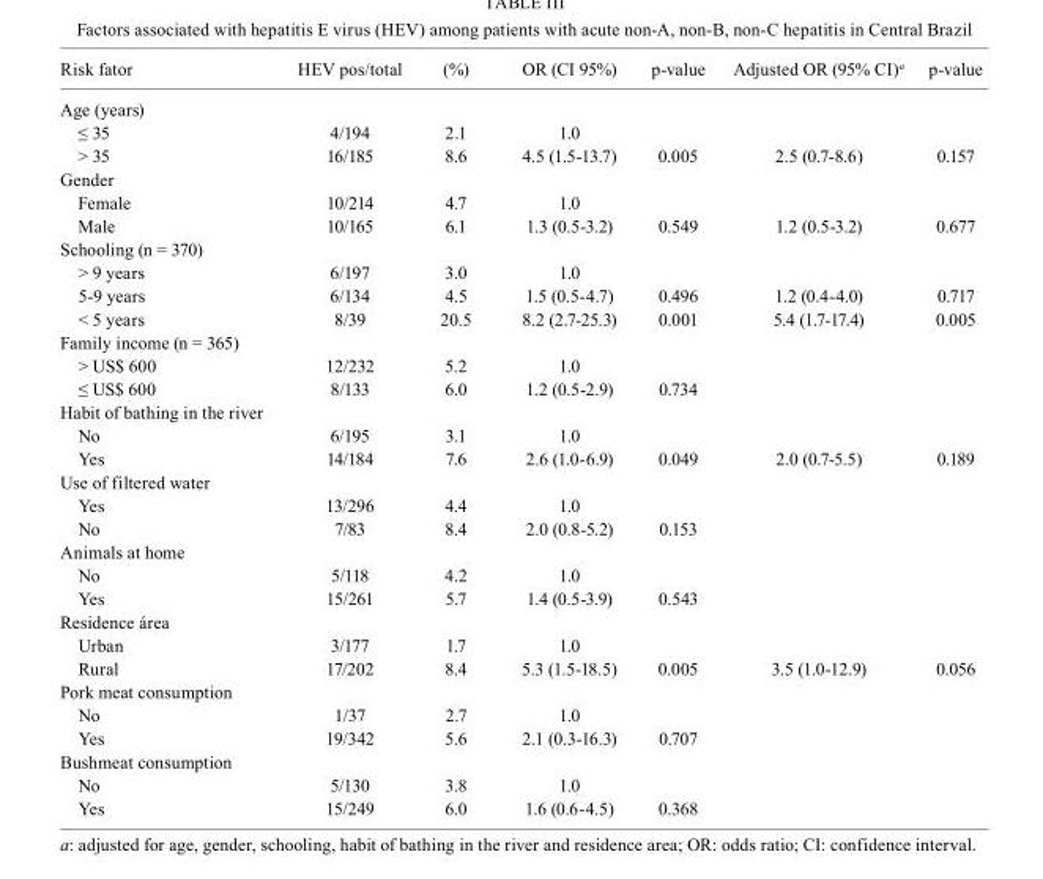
<table><thead><tr><td>Risk fator</td><td>HEV pos/total</td><td>(%)</td><td>OR (CI 95%)</td><td>p-value</td><td>Adjusted OR (95% CI)<sup>a</sup></td><td>p-value</td></tr></thead><tbody><tr><td colspan="7">Age (years)</td></tr><tr><td>≤ 35</td><td>4/194</td><td>2.1</td><td>1.0</td><td></td><td></td><td></td></tr><tr><td>&gt; 35</td><td>16/185</td><td>8.6</td><td>4.5 (1.5-13.7)</td><td>0.005</td><td>2.5 (0.7-8.6)</td><td>0.157</td></tr><tr><td colspan="7">Gender</td></tr><tr><td>Female</td><td>10/214</td><td>4.7</td><td>1.0</td><td></td><td></td><td></td></tr><tr><td>Male</td><td>10/165</td><td>6.1</td><td>1.3 (0.5-3.2)</td><td>0.549</td><td>1.2 (0.5-3.2)</td><td>0.677</td></tr><tr><td colspan="7">Schooling (n = 370)</td></tr><tr><td>&gt; 9 years</td><td>6/197</td><td>3.0</td><td>1.0</td><td></td><td></td><td></td></tr><tr><td>5-9 years</td><td>6/134</td><td>4.5</td><td>1.5 (0.5-4.7)</td><td>0.496</td><td>1.2 (0.4-4.0)</td><td>0.717</td></tr><tr><td>&lt; 5 years</td><td>8/39</td><td>20.5</td><td>8.2 (2.7-25.3)</td><td>0.001</td><td>5.4 (1.7-17.4)</td><td>0.005</td></tr><tr><td colspan="7">Family income (n = 365)</td></tr><tr><td>&gt; US$ 600</td><td>12/232</td><td>5.2</td><td>1.0</td><td></td><td></td><td></td></tr><tr><td>≤ US$ 600</td><td>8/133</td><td>6.0</td><td>1.2 (0.5-2.9)</td><td>0.734</td><td></td><td></td></tr><tr><td colspan="7">Habit of bathing in the river</td></tr><tr><td>No</td><td>6/195</td><td>3.1</td><td>1.0</td><td></td><td></td><td></td></tr><tr><td>Yes</td><td>14/184</td><td>7.6</td><td>2.6 (1.0-6.9)</td><td>0.049</td><td>2.0 (0.7-5.5)</td><td>0.189</td></tr><tr><td colspan="7">Use of filtered water</td></tr><tr><td>Yes</td><td>13/296</td><td>4.4</td><td>1.0</td><td></td><td></td><td></td></tr><tr><td>No</td><td>7/83</td><td>8.4</td><td>2.0 (0.8-5.2)</td><td>0.153</td><td></td><td></td></tr><tr><td colspan="7">Animals at home</td></tr><tr><td>No</td><td>5/118</td><td>4.2</td><td>1.0</td><td></td><td></td><td></td></tr><tr><td>Yes</td><td>15/261</td><td>5.7</td><td>1.4 (0.5-3.9)</td><td>0.543</td><td></td><td></td></tr><tr><td colspan="7">Residence área</td></tr><tr><td>Urban</td><td>3/177</td><td>1.7</td><td>1.0</td><td></td><td></td><td></td></tr><tr><td>Rural</td><td>17/202</td><td>8.4</td><td>5.3 (1.5-18.5)</td><td>0.005</td><td>3.5 (1.0-12.9)</td><td>0.056</td></tr><tr><td colspan="7">Pork meat consumption</td></tr><tr><td>No</td><td>1/37</td><td>2.7</td><td>1.0</td><td></td><td></td><td></td></tr><tr><td>Yes</td><td>19/342</td><td>5.6</td><td>2.1 (0.3-16.3)</td><td>0.707</td><td></td><td></td></tr><tr><td colspan="7">Bushmeat consumption</td></tr><tr><td>No</td><td>5/130</td><td>3.8</td><td>1.0</td><td></td><td></td><td></td></tr><tr><td>Yes</td><td>15/249</td><td>6.0</td><td>1.6 (0.6-4.5)</td><td>0.368</td><td></td><td></td></tr></tbody></table>